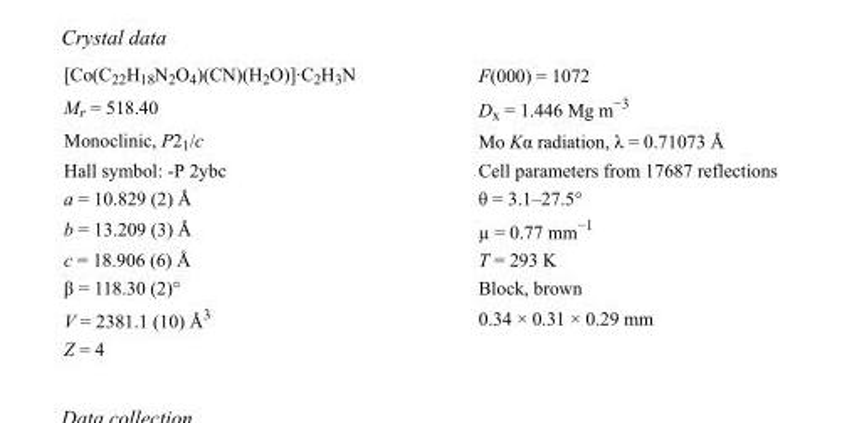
<table><tbody><tr><td>[Co(C<sub>22</sub>H<sub>18</sub>N<sub>2</sub>O<sub>4</sub>)(CN)(H<sub>2</sub>O)]·C<sub>2</sub>H<sub>3</sub>N</td><td>F(000) = 1072</td></tr><tr><td>M<sub>r</sub> = 518.40</td><td>D<sub>x</sub> = 1.446 Mg m<sup>−3</sup></td></tr><tr><td>Monoclinic, P2<sub>1</sub>/c</td><td>Mo Kα radiation, λ = 0.71073 Å</td></tr><tr><td>Hall symbol: -P 2ybc</td><td>Cell parameters from 17687 reflections</td></tr><tr><td>a = 10.829 (2) Å</td><td>θ = 3.1–27.5°</td></tr><tr><td>b = 13.209 (3) Å</td><td>µ = 0.77 mm<sup>−1</sup></td></tr><tr><td>c = 18.906 (6) Å</td><td>T = 293 K</td></tr><tr><td>β = 118.30 (2)°</td><td>Block, brown</td></tr><tr><td>V = 2381.1 (10) Å<sup>3</sup></td><td>0.34 × 0.31 × 0.29 mm</td></tr><tr><td>Z = 4</td><td></td></tr></tbody></table>